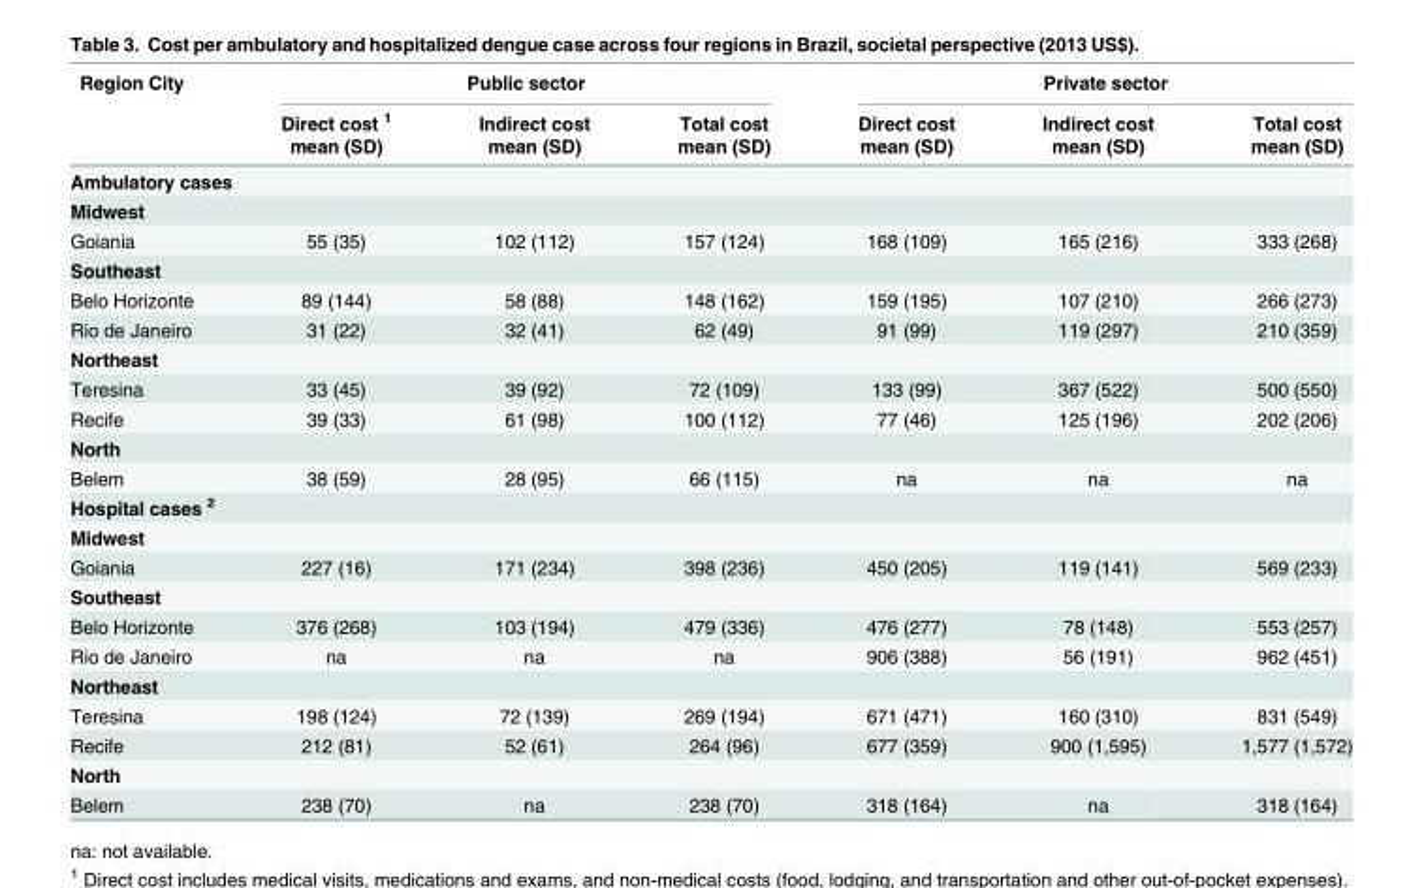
<table><thead><tr><td rowspan="3">Region City</td><td colspan="3">Public sector</td><td colspan="3">Private sector</td></tr><tr><td rowspan="2">Direct cost <sup>1</sup> mean (SD)</td><td rowspan="2">Indirect cost mean (SD)</td><td rowspan="2">Total cost mean (SD)</td><td rowspan="2">Direct cost mean (SD)</td><td rowspan="2">Indirect cost mean (SD)</td><td rowspan="2">Total cost mean (SD)</td></tr><tr></tr></thead><tbody><tr><td colspan="7">Ambulatory cases</td></tr><tr><td colspan="7">Midwest</td></tr><tr><td>Goiania</td><td>55 (35)</td><td>102 (112)</td><td>157 (124)</td><td>168 (109)</td><td>165 (216)</td><td>333 (268)</td></tr><tr><td colspan="7">Southeast</td></tr><tr><td>Belo Horizonte</td><td>89 (144)</td><td>58 (88)</td><td>148 (162)</td><td>159 (195)</td><td>107 (210)</td><td>266 (273)</td></tr><tr><td>Rio de Janeiro</td><td>31 (22)</td><td>32 (41)</td><td>62 (49)</td><td>91 (99)</td><td>119 (297)</td><td>210 (359)</td></tr><tr><td colspan="7">Northeast</td></tr><tr><td>Teresina</td><td>33 (45)</td><td>39 (92)</td><td>72 (109)</td><td>133 (99)</td><td>367 (522)</td><td>500 (550)</td></tr><tr><td>Recife</td><td>39 (33)</td><td>61 (98)</td><td>100 (112)</td><td>77 (46)</td><td>125 (196)</td><td>202 (206)</td></tr><tr><td colspan="7">North</td></tr><tr><td>Belem</td><td>38 (59)</td><td>28 (95)</td><td>66 (115)</td><td>na</td><td>na</td><td>na</td></tr><tr><td colspan="7">Hospital cases <sup>2</sup></td></tr><tr><td colspan="7">Midwest</td></tr><tr><td>Goiania</td><td>227 (16)</td><td>171 (234)</td><td>398 (236)</td><td>450 (205)</td><td>119 (141)</td><td>569 (233)</td></tr><tr><td colspan="7">Southeast</td></tr><tr><td>Belo Horizonte</td><td>376 (268)</td><td>103 (194)</td><td>479 (336)</td><td>476 (277)</td><td>78 (148)</td><td>553 (257)</td></tr><tr><td>Rio de Janeiro</td><td>na</td><td>na</td><td>na</td><td>906 (388)</td><td>56 (191)</td><td>962 (451)</td></tr><tr><td colspan="7">Northeast</td></tr><tr><td>Teresina</td><td>198 (124)</td><td>72 (139)</td><td>269 (194)</td><td>671 (471)</td><td>160 (310)</td><td>831 (549)</td></tr><tr><td>Recife</td><td>212 (81)</td><td>52 (61)</td><td>264 (96)</td><td>677 (359)</td><td>900 (1,595)</td><td>1,577 (1,572)</td></tr><tr><td colspan="7">North</td></tr><tr><td>Belem</td><td>238 (70)</td><td>na</td><td>238 (70)</td><td>318 (164)</td><td>na</td><td>318 (164)</td></tr></tbody></table>